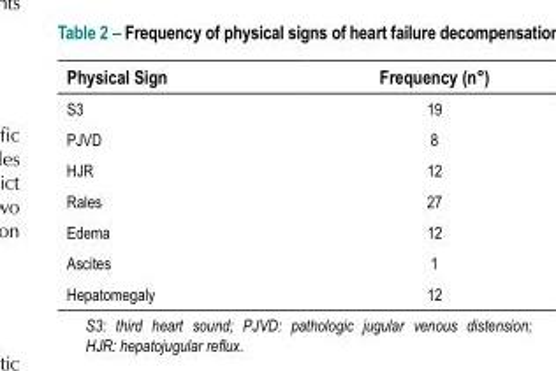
<table><thead><tr><td>Physical Sign</td><td>Frequency (n°)</td></tr></thead><tbody><tr><td>S3</td><td>19</td></tr><tr><td>PJVD</td><td>8</td></tr><tr><td>HJR</td><td>12</td></tr><tr><td>Rales</td><td>27</td></tr><tr><td>Edema</td><td>12</td></tr><tr><td>Ascites</td><td>1</td></tr><tr><td>Hepatomegaly</td><td>12</td></tr></tbody></table>